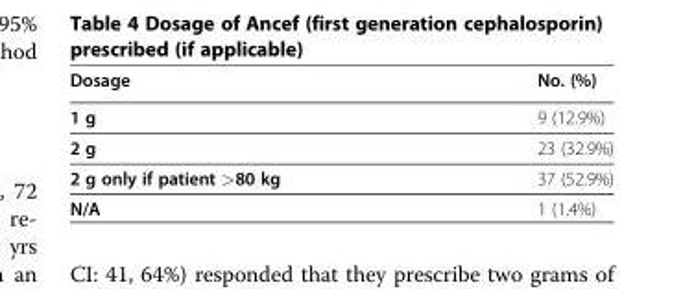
<table><thead><tr><td>Dosage</td><td>No. (%)</td></tr></thead><tbody><tr><td>1 g</td><td>9 (12.9%)</td></tr><tr><td>2 g</td><td>23 (32.9%)</td></tr><tr><td>2 g only if patient &gt;80 kg</td><td>37 (52.9%)</td></tr><tr><td>N/A</td><td>1 (1.4%)</td></tr></tbody></table>